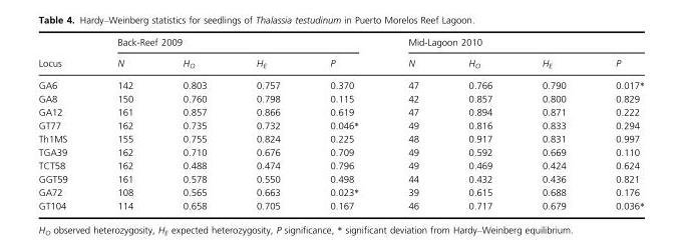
<table><thead><tr><td rowspan="2">Locus</td><td colspan="4">Back-Reef 2009</td><td colspan="4">Mid-Lagoon 2010</td></tr><tr><td>N</td><td>H<sub>O</sub></td><td>H<sub>E</sub></td><td>P</td><td>N</td><td>H<sub>O</sub></td><td>H<sub>E</sub></td><td>P</td></tr></thead><tbody><tr><td>GA6</td><td>142</td><td>0.803</td><td>0.757</td><td>0.370</td><td>47</td><td>0.766</td><td>0.790</td><td>0.017*</td></tr><tr><td>GA8</td><td>150</td><td>0.760</td><td>0.798</td><td>0.115</td><td>42</td><td>0.857</td><td>0.800</td><td>0.829</td></tr><tr><td>GA12</td><td>161</td><td>0.857</td><td>0.866</td><td>0.619</td><td>47</td><td>0.894</td><td>0.871</td><td>0.222</td></tr><tr><td>GT77</td><td>162</td><td>0.735</td><td>0.732</td><td>0.046*</td><td>49</td><td>0.816</td><td>0.833</td><td>0.294</td></tr><tr><td>Th1MS</td><td>155</td><td>0.755</td><td>0.824</td><td>0.225</td><td>48</td><td>0.917</td><td>0.831</td><td>0.997</td></tr><tr><td>TGA39</td><td>162</td><td>0.710</td><td>0.676</td><td>0.709</td><td>49</td><td>0.592</td><td>0.669</td><td>0.110</td></tr><tr><td>TCT58</td><td>162</td><td>0.488</td><td>0.474</td><td>0.796</td><td>49</td><td>0.469</td><td>0.424</td><td>0.624</td></tr><tr><td>GGT59</td><td>161</td><td>0.578</td><td>0.550</td><td>0.498</td><td>44</td><td>0.432</td><td>0.436</td><td>0.821</td></tr><tr><td>GA72</td><td>108</td><td>0.565</td><td>0.663</td><td>0.023*</td><td>39</td><td>0.615</td><td>0.688</td><td>0.176</td></tr><tr><td>GT104</td><td>114</td><td>0.658</td><td>0.705</td><td>0.167</td><td>46</td><td>0.717</td><td>0.679</td><td>0.036*</td></tr></tbody></table>